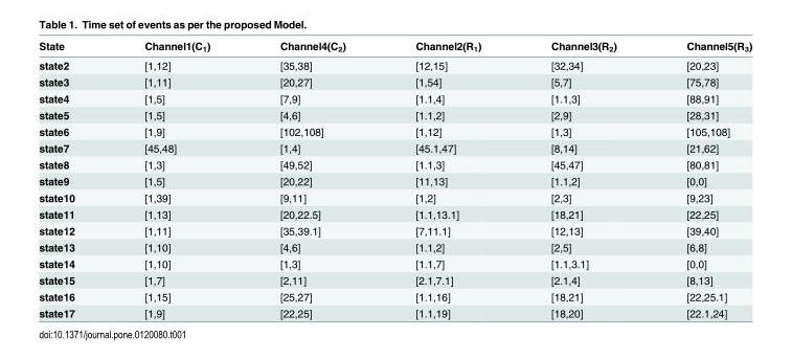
<table><thead><tr><td>State</td><td>Channel1(C<sub>1</sub>)</td><td>Channel4(C<sub>2</sub>)</td><td>Channel2(R<sub>1</sub>)</td><td>Channel3(R<sub>2</sub>)</td><td>Channel5(R<sub>3</sub>)</td></tr></thead><tbody><tr><td>state2</td><td>[1,12]</td><td>[35,38]</td><td>[12,15]</td><td>[32,34]</td><td>[20,23]</td></tr><tr><td>state3</td><td>[1,11]</td><td>[20,27]</td><td>[1,54]</td><td>[5,7]</td><td>[75,78]</td></tr><tr><td>state4</td><td>[1,5]</td><td>[7,9]</td><td>[1.1,4]</td><td>[1.1,3]</td><td>[88,91]</td></tr><tr><td>state5</td><td>[1,5]</td><td>[4,6]</td><td>[1.1,2]</td><td>[2,9]</td><td>[28,31]</td></tr><tr><td>state6</td><td>[1,9]</td><td>[102,108]</td><td>[1,12]</td><td>[1,3]</td><td>[105,108]</td></tr><tr><td>state7</td><td>[45,48]</td><td>[1,4]</td><td>[45.1,47]</td><td>[8,14]</td><td>[21,62]</td></tr><tr><td>state8</td><td>[1,3]</td><td>[49,52]</td><td>[1.1,3]</td><td>[45,47]</td><td>[80,81]</td></tr><tr><td>state9</td><td>[1,5]</td><td>[20,22]</td><td>[11,13]</td><td>[1.1,2]</td><td>[0,0]</td></tr><tr><td>state10</td><td>[1,39]</td><td>[9,11]</td><td>[1,2]</td><td>[2,3]</td><td>[9,23]</td></tr><tr><td>state11</td><td>[1,13]</td><td>[20,22.5]</td><td>[1.1,13.1]</td><td>[18,21]</td><td>[22,25]</td></tr><tr><td>state12</td><td>[1,11]</td><td>[35,39.1]</td><td>[7,11.1]</td><td>[12,13]</td><td>[39,40]</td></tr><tr><td>state13</td><td>[1,10]</td><td>[4,6]</td><td>[1.1,2]</td><td>[2,5]</td><td>[6,8]</td></tr><tr><td>state14</td><td>[1,10]</td><td>[1,3]</td><td>[1.1,7]</td><td>[1.1,3.1]</td><td>[0,0]</td></tr><tr><td>state15</td><td>[1,7]</td><td>[2,11]</td><td>[2.1,7.1]</td><td>[2.1,4]</td><td>[8,13]</td></tr><tr><td>state16</td><td>[1,15]</td><td>[25,27]</td><td>[1.1,16]</td><td>[18,21]</td><td>[22,25.1]</td></tr><tr><td>state17</td><td>[1,9]</td><td>[22,25]</td><td>[1.1,19]</td><td>[18,20]</td><td>[22.1,24]</td></tr></tbody></table>